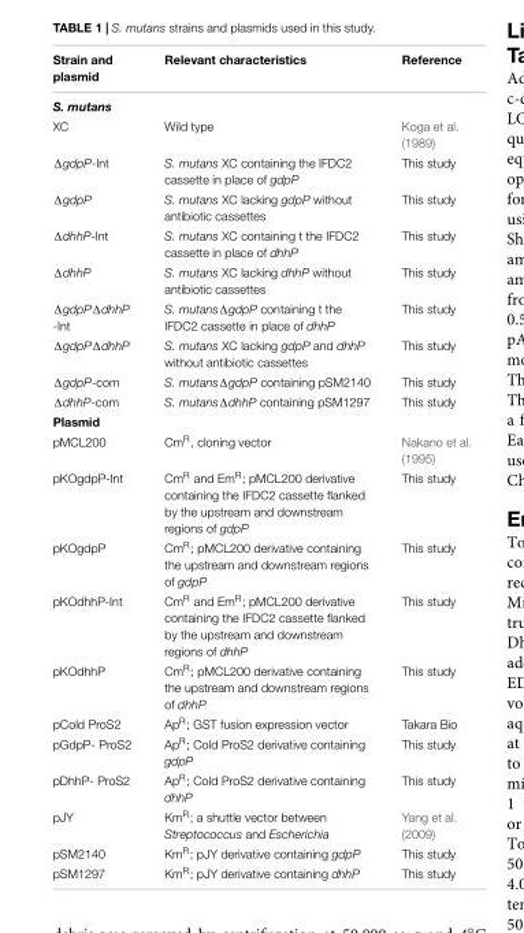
<table><thead><tr><td>Strain and plasmid</td><td>Relevant characteristics</td><td>Reference</td></tr></thead><tbody><tr><td colspan="3">S. mutans</td></tr><tr><td>XC</td><td>Wild type</td><td>Koga et al. (1989)</td></tr><tr><td>ΔgdpP-Int</td><td>S. mutans XC containing the IFDC2 cassette in place of gdpP</td><td>This study</td></tr><tr><td>ΔgdpP</td><td>S. mutans XC lacking gdpP without antibiotic cassettes</td><td>This study</td></tr><tr><td>ΔdhhP-Int</td><td>S. mutans XC containing t the IFDC2 cassette in place of dhhP</td><td>This study</td></tr><tr><td>ΔdhhP</td><td>S. mutans XC lacking dhhP without antibiotic cassettes</td><td>This study</td></tr><tr><td>ΔgdpPΔdhhP -Int</td><td>S. mutansΔgdpP containing t the IFDC2 cassette in place of dhhP</td><td>This study</td></tr><tr><td>ΔgdpPΔdhhP</td><td>S. mutans XC lacking gdpP and dhhP without antibiotic cassettes</td><td>This study</td></tr><tr><td>ΔgdpP-com</td><td>S. mutansΔgdpP containing pSM2140</td><td>This study</td></tr><tr><td>ΔdhhP-com</td><td>S. mutansΔdhhP containing pSM1297</td><td>This study</td></tr><tr><td colspan="3">Plasmid</td></tr><tr><td>pMCL200</td><td>Cm<sup>R</sup>, cloning vector</td><td>Nakano et al. (1995)</td></tr><tr><td>pKOgdpP-Int</td><td>Cm<sup>R</sup> and Em<sup>R</sup>; pMCL200 derivative containing the IFDC2 cassette flanked by the upstream and downstream regions of gdpP</td><td>This study</td></tr><tr><td>pKOgdpP</td><td>Cm<sup>R</sup>; pMCL200 derivative containing the upstream and downstream regions of gdpP</td><td>This study</td></tr><tr><td>pKOdhhP-Int</td><td>Cm<sup>R</sup> and Em<sup>R</sup>; pMCL200 derivative containing the IFDC2 cassette flanked by the upstream and downstream regions of dhhP</td><td>This study</td></tr><tr><td>pKOdhhP</td><td>Cm<sup>R</sup>; pMCL200 derivative containing the upstream and downstream regions of dhhP</td><td>This study</td></tr><tr><td>pCold ProS2</td><td>Ap<sup>R</sup>; GST fusion expression vector</td><td>Takara Bio</td></tr><tr><td>pGdpP- ProS2</td><td>Ap<sup>R</sup>; Cold ProS2 derivative containing gdpP</td><td>This study</td></tr><tr><td>pDhhP- ProS2</td><td>Ap<sup>R</sup>; Cold ProS2 derivative containing dhhP</td><td>This study</td></tr><tr><td>pJY</td><td>Km<sup>R</sup>; a shuttle vector between Streptococcus and Escherichia</td><td>Yang et al. (2009)</td></tr><tr><td>pSM2140</td><td>Km<sup>R</sup>; pJY derivative containing gdpP</td><td>This study</td></tr><tr><td>pSM1297</td><td>Km<sup>R</sup>; pJY derivative containing dhhP</td><td>This study</td></tr></tbody></table>